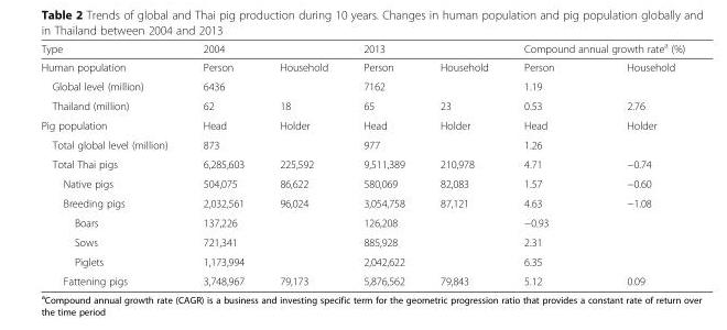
<table><thead><tr><td rowspan="2">Type Human population</td><td colspan="2">2004</td><td colspan="2">2013</td><td colspan="2">Compound annual growth rate<sup>a</sup> (%)</td></tr><tr><td>Person</td><td>Household</td><td>Person</td><td>Household</td><td>Person</td><td>Household</td></tr></thead><tbody><tr><td>Global level (million)</td><td>6436</td><td></td><td>7162</td><td></td><td>1.19</td><td></td></tr><tr><td>Thailand (million)</td><td>62</td><td>18</td><td>65</td><td>23</td><td>0.53</td><td>2.76</td></tr><tr><td>Pig population</td><td>Head</td><td>Holder</td><td>Head</td><td>Holder</td><td>Head</td><td>Holder</td></tr><tr><td>Total global level (million)</td><td>873</td><td></td><td>977</td><td></td><td>1.26</td><td></td></tr><tr><td>Total Thai pigs</td><td>6,285,603</td><td>225,592</td><td>9,511,389</td><td>210,978</td><td>4.71</td><td>−0.74</td></tr><tr><td>Native pigs</td><td>504,075</td><td>86,622</td><td>580,069</td><td>82,083</td><td>1.57</td><td>−0.60</td></tr><tr><td>Breeding pigs</td><td>2,032,561</td><td>96,024</td><td>3,054,758</td><td>87,121</td><td>4.63</td><td>−1.08</td></tr><tr><td>Boars</td><td>137,226</td><td></td><td>126,208</td><td></td><td>−0.93</td><td></td></tr><tr><td>Sows</td><td>721,341</td><td></td><td>885,928</td><td></td><td>2.31</td><td></td></tr><tr><td>Piglets</td><td>1,173,994</td><td></td><td>2,042,622</td><td></td><td>6.35</td><td></td></tr><tr><td>Fattening pigs</td><td>3,748,967</td><td>79,173</td><td>5,876,562</td><td>79,843</td><td>5.12</td><td>0.09</td></tr></tbody></table>